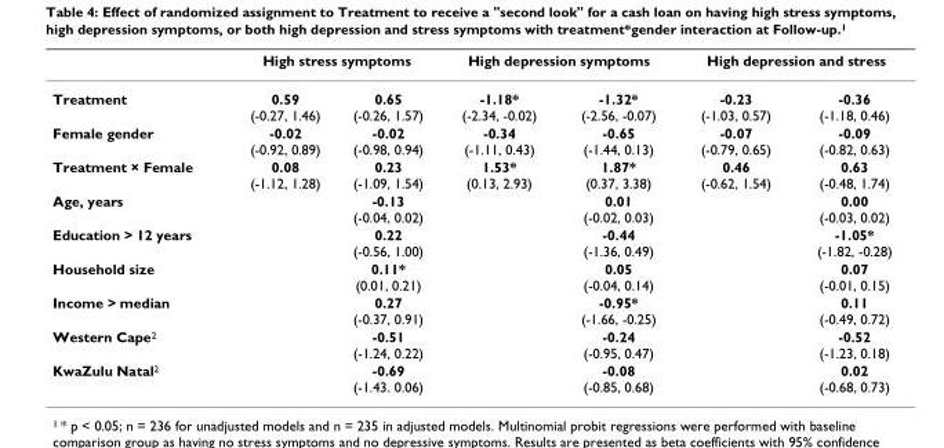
<table><thead><tr><td rowspan="2">Treatment</td><td colspan="2">High stress symptoms</td><td colspan="2">High depression symptoms</td><td colspan="2">High depression and stress</td></tr><tr><td>0.59 (-0.27, 1.46)</td><td>0.65 (-0.26, 1.57)</td><td>-1.18* (-2.34, -0.02)</td><td>-1.32* (-2.56, -0.07)</td><td>-0.23 (-1.03, 0.57)</td><td>-0.36 (-1.18, 0.46)</td></tr></thead><tbody><tr><td>Female gender</td><td>-0.02 (-0.92, 0.89)</td><td>-0.02 (-0.98, 0.94)</td><td>-0.34 (-1.11, 0.43)</td><td>-0.65 (-1.44, 0.13)</td><td>-0.07 (-0.79, 0.65)</td><td>-0.09 (-0.82, 0.63)</td></tr><tr><td>Treatment × Female</td><td>0.08 (-1.12, 1.28)</td><td>0.23 (-1.09, 1.54)</td><td>1.53* (0.13, 2.93)</td><td>1.87* (0.37, 3.38)</td><td>0.46 (-0.62, 1.54)</td><td>0.63 (-0.48, 1.74)</td></tr><tr><td>Age, years</td><td></td><td>-0.13 (-0.04, 0.02)</td><td></td><td>0.01 (-0.02, 0.03)</td><td></td><td>0.00 (-0.03, 0.02)</td></tr><tr><td>Education &gt; 12 years</td><td></td><td>0.22 (-0.56, 1.00)</td><td></td><td>-0.44 (-1.36, 0.49)</td><td></td><td>-1.05* (-1.82, -0.28)</td></tr><tr><td>Household size</td><td></td><td>0.11* (0.01, 0.21)</td><td></td><td>0.05 (-0.04, 0.14)</td><td></td><td>0.07 (-0.01, 0.15)</td></tr><tr><td>Income &gt; median</td><td></td><td>0.27 (-0.37, 0.91)</td><td></td><td>-0.95* (-1.66, -0.25)</td><td></td><td>0.11 (-0.49, 0.72)</td></tr><tr><td>Western Cape<sup>2</sup></td><td></td><td>-0.51 (-1.24, 0.22)</td><td></td><td>-0.24 (-0.95, 0.47)</td><td></td><td>-0.52 (-1.23, 0.18)</td></tr><tr><td>KwaZulu Natal<sup>2</sup></td><td></td><td>-0.69 (-1.43. 0.06)</td><td></td><td>-0.08 (-0.85, 0.68)</td><td></td><td>0.02 (-0.68, 0.73)</td></tr></tbody></table>